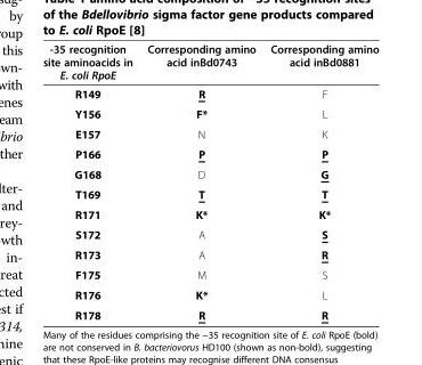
<table><thead><tr><td>-35 recognition site aminoacids in E. coli RpoE</td><td>Corresponding amino acid inBd0743</td><td>Corresponding amino acid inBd0881</td></tr></thead><tbody><tr><td>R149</td><td>R</td><td>F</td></tr><tr><td>Y156</td><td>F*</td><td>L</td></tr><tr><td>E157</td><td>N</td><td>K</td></tr><tr><td>P166</td><td>P</td><td>P</td></tr><tr><td>G168</td><td>D</td><td>G</td></tr><tr><td>T169</td><td>T</td><td>T</td></tr><tr><td>R171</td><td>K*</td><td>K*</td></tr><tr><td>S172</td><td>A</td><td>S</td></tr><tr><td>R173</td><td>A</td><td>R</td></tr><tr><td>F175</td><td>M</td><td>S</td></tr><tr><td>R176</td><td>K*</td><td>L</td></tr><tr><td>R178</td><td>R</td><td>R</td></tr></tbody></table>